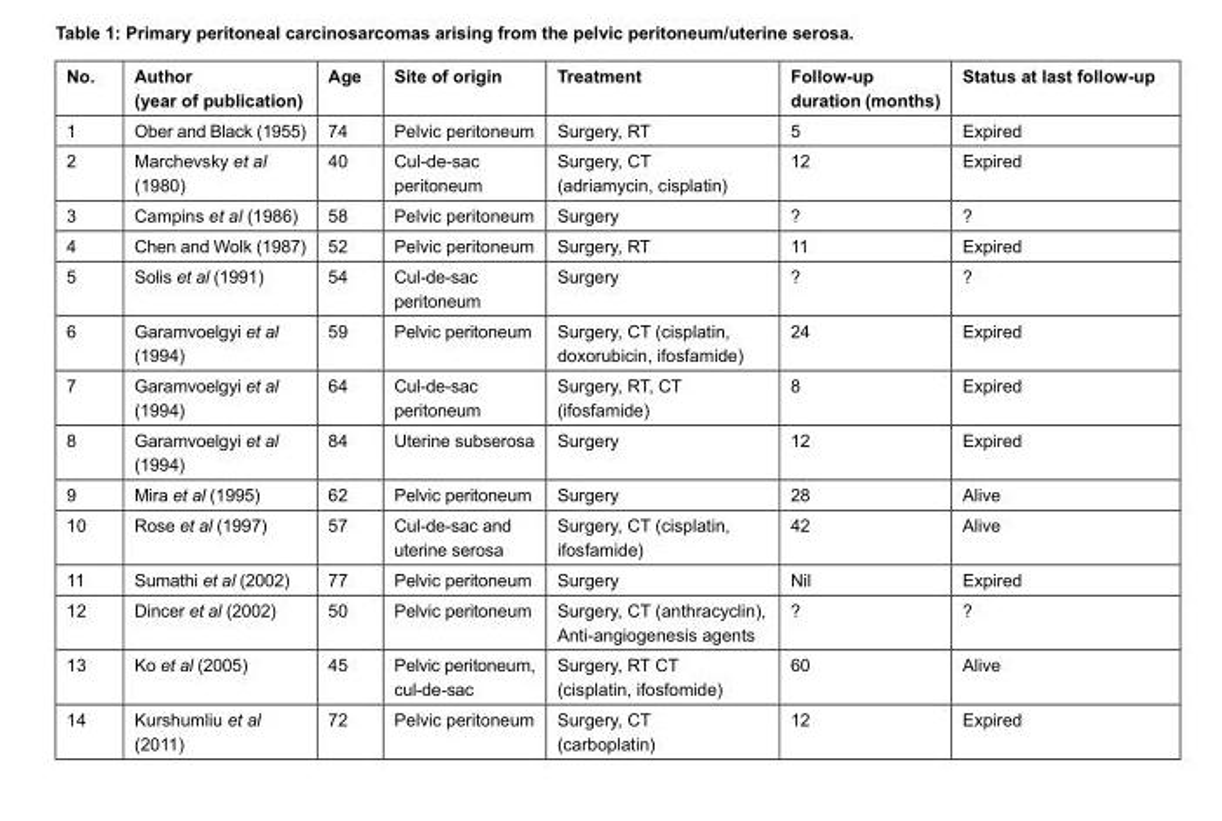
<table><thead><tr><td>No.</td><td>Author (year of publication)</td><td>Age</td><td>Site of origin</td><td>Treatment</td><td>Follow-up duration (months)</td><td>Status at last follow-up</td></tr></thead><tbody><tr><td>1</td><td>Ober and Black (1955)</td><td>74</td><td>Pelvic peritoneum</td><td>Surgery, RT</td><td>5</td><td>Expired</td></tr><tr><td>2</td><td>Marchevsky et al (1980)</td><td>40</td><td>Cul-de-sac peritoneum</td><td>Surgery, CT (adriamycin, cisplatin)</td><td>12</td><td>Expired</td></tr><tr><td>3</td><td>Campins et al (1986)</td><td>58</td><td>Pelvic peritoneum</td><td>Surgery</td><td>?</td><td>?</td></tr><tr><td>4</td><td>Chen and Wolk (1987)</td><td>52</td><td>Pelvic peritoneum</td><td>Surgery, RT</td><td>11</td><td>Expired</td></tr><tr><td>5</td><td>Solis et al (1991)</td><td>54</td><td>Cul-de-sac peritoneum</td><td>Surgery</td><td>?</td><td>?</td></tr><tr><td>6</td><td>Garamvoelgyi et al (1994)</td><td>59</td><td>Pelvic peritoneum</td><td>Surgery, CT (cisplatin, doxorubicin, ifosfamide)</td><td>24</td><td>Expired</td></tr><tr><td>7</td><td>Garamvoelgyi et al (1994)</td><td>64</td><td>Cul-de-sac peritoneum</td><td>Surgery, RT, CT (ifosfamide)</td><td>8</td><td>Expired</td></tr><tr><td>8</td><td>Garamvoelgyi et al (1994)</td><td>84</td><td>Uterine subserosa</td><td>Surgery</td><td>12</td><td>Expired</td></tr><tr><td>9</td><td>Mira et al (1995)</td><td>62</td><td>Pelvic peritoneum</td><td>Surgery</td><td>28</td><td>Alive</td></tr><tr><td>10</td><td>Rose et al (1997)</td><td>57</td><td>Cul-de-sac and uterine serosa</td><td>Surgery, CT (cisplatin, ifosfamide)</td><td>42</td><td>Alive</td></tr><tr><td>11</td><td>Sumathi et al (2002)</td><td>77</td><td>Pelvic peritoneum</td><td>Surgery</td><td>Nil</td><td>Expired</td></tr><tr><td>12</td><td>Dincer et al (2002)</td><td>50</td><td>Pelvic peritoneum</td><td>Surgery, CT (anthracyclin), Anti-angiogenesis agents</td><td>?</td><td>?</td></tr><tr><td>13</td><td>Ko et al (2005)</td><td>45</td><td>Pelvic peritoneum, cul-de-sac</td><td>Surgery, RT CT (cisplatin, ifosfomide)</td><td>60</td><td>Alive</td></tr><tr><td>14</td><td>Kurshumliu et al (2011)</td><td>72</td><td>Pelvic peritoneum</td><td>Surgery, CT (carboplatin)</td><td>12</td><td>Expired</td></tr></tbody></table>